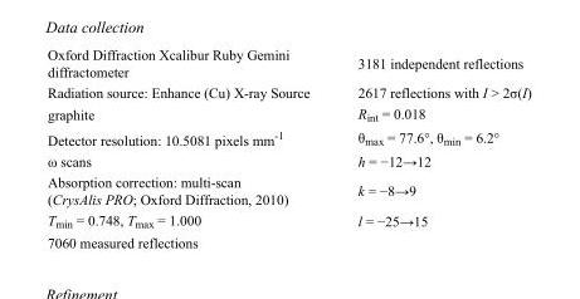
<table><tbody><tr><td>Oxford Diffraction Xcalibur Ruby Gemini diffractometer</td><td>3181 independent reflections</td></tr><tr><td>Radiation source: Enhance (Cu) X-ray Source</td><td>2617 reflections with I &gt; 2σ(I)</td></tr><tr><td>graphite</td><td>R<sub>int</sub> = 0.018</td></tr><tr><td>Detector resolution: 10.5081 pixels mm<sup>-1</sup></td><td>θ<sub>max</sub> = 77.6°, θ<sub>min</sub> = 6.2°</td></tr><tr><td>ω scans</td><td>h = −12→12</td></tr><tr><td>Absorption correction: multi-scan (CrysAlis PRO; Oxford Diffraction, 2010)</td><td>k = −8→9</td></tr><tr><td>T<sub>min</sub> = 0.748, T<sub>max</sub> = 1.000</td><td>l = −25→15</td></tr><tr><td>7060 measured reflections</td><td></td></tr></tbody></table>